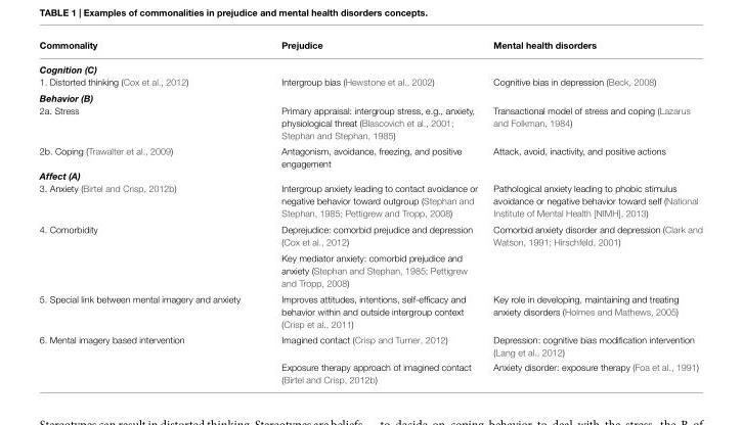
<table><thead><tr><td>Commonality</td><td>Prejudice</td><td>Mental health disorders</td></tr></thead><tbody><tr><td colspan="3">Cognition (C)</td></tr><tr><td>1. Distorted thinking (Cox et al., 2012)</td><td>Intergroup bias (Hewstone et al., 2002)</td><td>Cognitive bias in depression (Beck, 2008)</td></tr><tr><td colspan="3">Behavior (B)</td></tr><tr><td>2a. Stress</td><td>Primary appraisal: intergroup stress, e.g., anxiety, physiological threat (Blascovich et al., 2001; Stephan and Stephan, 1985)</td><td>Transactional model of stress and coping (Lazarus and Folkman, 1984)</td></tr><tr><td>2b. Coping (Trawalter et al., 2009)</td><td>Antagonism, avoidance, freezing, and positive engagement</td><td>Attack, avoid, inactivity, and positive actions</td></tr><tr><td colspan="3">Affect (A)</td></tr><tr><td>3. Anxiety (Birtel and Crisp, 2012b)</td><td>Intergroup anxiety leading to contact avoidance or negative behavior toward outgroup (Stephan and Stephan, 1985; Pettigrew and Tropp, 2008)</td><td>Pathological anxiety leading to phobic stimulus avoidance or negative behavior toward self (National Institute of Mental Health [NIMH], 2013)</td></tr><tr><td rowspan="2">4. Comorbidity</td><td>Deprejudice: comorbid prejudice and depression (Cox et al., 2012)</td><td>Comorbid anxiety disorder and depression (Clark and Watson, 1991; Hirschfeld, 2001)</td></tr><tr><td>Key mediator anxiety: comorbid prejudice and anxiety (Stephan and Stephan, 1985; Pettigrew and Tropp, 2008)</td><td></td></tr><tr><td>5. Special link between mental imagery and anxiety</td><td>Improves attitudes, intentions, self-efficacy and behavior within and outside intergroup context (Crisp et al., 2011)</td><td>Key role in developing, maintaining and treating anxiety disorders (Holmes and Mathews, 2005)</td></tr><tr><td rowspan="2">6. Mental imagery based intervention</td><td>Imagined contact (Crisp and Turner, 2012)</td><td>Depression: cognitive bias modification intervention (Lang et al., 2012)</td></tr><tr><td>Exposure therapy approach of imagined contact (Birtel and Crisp, 2012b)</td><td>Anxiety disorder: exposure therapy (Foa et al., 1991)</td></tr></tbody></table>